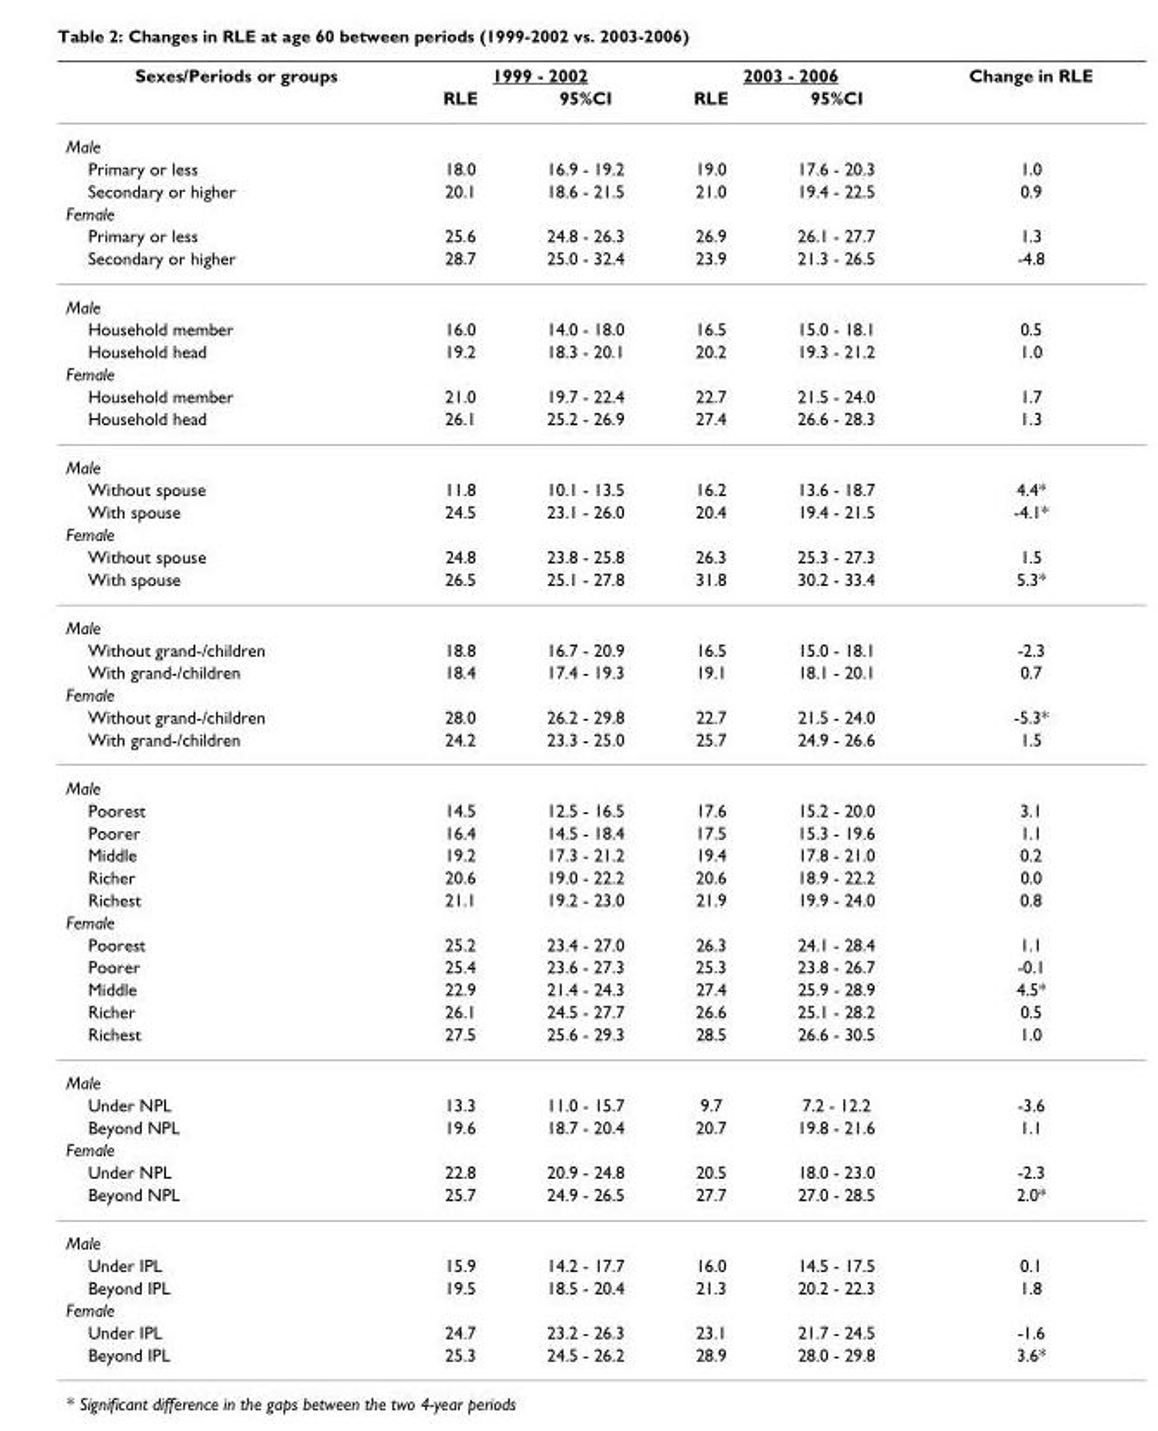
<table><thead><tr><td rowspan="2">Sexes/Periods or groups</td><td colspan="2">1999 - 2002</td><td colspan="2">2003 - 2006</td><td rowspan="2">Change in RLE</td></tr><tr><td>RLE</td><td>95%CI</td><td>RLE</td><td>95%CI</td></tr></thead><tbody><tr><td colspan="6">Male</td></tr><tr><td>Primary or less</td><td>18.0</td><td>16.9 - 19.2</td><td>19.0</td><td>17.6 - 20.3</td><td>1.0</td></tr><tr><td>Secondary or higher</td><td>20.1</td><td>18.6 - 21.5</td><td>21.0</td><td>19.4 - 22.5</td><td>0.9</td></tr><tr><td colspan="6">Female</td></tr><tr><td>Primary or less</td><td>25.6</td><td>24.8 - 26.3</td><td>26.9</td><td>26.1 - 27.7</td><td>1.3</td></tr><tr><td>Secondary or higher</td><td>28.7</td><td>25.0 - 32.4</td><td>23.9</td><td>21.3 - 26.5</td><td>-4.8</td></tr><tr><td colspan="6">Male</td></tr><tr><td>Household member</td><td>16.0</td><td>14.0 - 18.0</td><td>16.5</td><td>15.0 - 18.1</td><td>0.5</td></tr><tr><td>Household head</td><td>19.2</td><td>18.3 - 20.1</td><td>20.2</td><td>19.3 - 21.2</td><td>1.0</td></tr><tr><td colspan="6">Female</td></tr><tr><td>Household member</td><td>21.0</td><td>19.7 - 22.4</td><td>22.7</td><td>21.5 - 24.0</td><td>1.7</td></tr><tr><td>Household head</td><td>26.1</td><td>25.2 - 26.9</td><td>27.4</td><td>26.6 - 28.3</td><td>1.3</td></tr><tr><td colspan="6">Male</td></tr><tr><td>Without spouse</td><td>11.8</td><td>10.1 - 13.5</td><td>16.2</td><td>13.6 - 18.7</td><td>4.4*</td></tr><tr><td>With spouse</td><td>24.5</td><td>23.1 - 26.0</td><td>20.4</td><td>19.4 - 21.5</td><td>-4.1*</td></tr><tr><td colspan="6">Female</td></tr><tr><td>Without spouse</td><td>24.8</td><td>23.8 - 25.8</td><td>26.3</td><td>25.3 - 27.3</td><td>1.5</td></tr><tr><td>With spouse</td><td>26.5</td><td>25.1 - 27.8</td><td>31.8</td><td>30.2 - 33.4</td><td>5.3*</td></tr><tr><td colspan="6">Male</td></tr><tr><td>Without grand-/children</td><td>18.8</td><td>16.7 - 20.9</td><td>16.5</td><td>15.0 - 18.1</td><td>-2.3</td></tr><tr><td>With grand-/children</td><td>18.4</td><td>17.4 - 19.3</td><td>19.1</td><td>18.1 - 20.1</td><td>0.7</td></tr><tr><td colspan="6">Female</td></tr><tr><td>Without grand-/children</td><td>28.0</td><td>26.2 - 29.8</td><td>22.7</td><td>21.5 - 24.0</td><td>-5.3*</td></tr><tr><td>With grand-/children</td><td>24.2</td><td>23.3 - 25.0</td><td>25.7</td><td>24.9 - 26.6</td><td>1.5</td></tr><tr><td colspan="6">Male</td></tr><tr><td>Poorest</td><td>14.5</td><td>12.5 - 16.5</td><td>17.6</td><td>15.2 - 20.0</td><td>3.1</td></tr><tr><td>Poorer</td><td>16.4</td><td>14.5 - 18.4</td><td>17.5</td><td>15.3 - 19.6</td><td>1.1</td></tr><tr><td>Middle</td><td>19.2</td><td>17.3 - 21.2</td><td>19.4</td><td>17.8 - 21.0</td><td>0.2</td></tr><tr><td>Richer</td><td>20.6</td><td>19.0 - 22.2</td><td>20.6</td><td>18.9 - 22.2</td><td>0.0</td></tr><tr><td>Richest</td><td>21.1</td><td>19.2 - 23.0</td><td>21.9</td><td>19.9 - 24.0</td><td>0.8</td></tr><tr><td colspan="6">Female</td></tr><tr><td>Poorest</td><td>25.2</td><td>23.4 - 27.0</td><td>26.3</td><td>24.1 - 28.4</td><td>1.1</td></tr><tr><td>Poorer</td><td>25.4</td><td>23.6 - 27.3</td><td>25.3</td><td>23.8 - 26.7</td><td>-0.1</td></tr><tr><td>Middle</td><td>22.9</td><td>21.4 - 24.3</td><td>27.4</td><td>25.9 - 28.9</td><td>4.5*</td></tr><tr><td>Richer</td><td>26.1</td><td>24.5 - 27.7</td><td>26.6</td><td>25.1 - 28.2</td><td>0.5</td></tr><tr><td>Richest</td><td>27.5</td><td>25.6 - 29.3</td><td>28.5</td><td>26.6 - 30.5</td><td>1.0</td></tr><tr><td colspan="6">Male</td></tr><tr><td>Under NPL</td><td>13.3</td><td>11.0 - 15.7</td><td>9.7</td><td>7.2 - 12.2</td><td>-3.6</td></tr><tr><td>Beyond NPL</td><td>19.6</td><td>18.7 - 20.4</td><td>20.7</td><td>19.8 - 21.6</td><td>1.1</td></tr><tr><td colspan="6">Female</td></tr><tr><td>Under NPL</td><td>22.8</td><td>20.9 - 24.8</td><td>20.5</td><td>18.0 - 23.0</td><td>-2.3</td></tr><tr><td>Beyond NPL</td><td>25.7</td><td>24.9 - 26.5</td><td>27.7</td><td>27.0 - 28.5</td><td>2.0*</td></tr><tr><td colspan="6">Male</td></tr><tr><td>Under IPL</td><td>15.9</td><td>14.2 - 17.7</td><td>16.0</td><td>14.5 - 17.5</td><td>0.1</td></tr><tr><td>Beyond IPL</td><td>19.5</td><td>18.5 - 20.4</td><td>21.3</td><td>20.2 - 22.3</td><td>1.8</td></tr><tr><td colspan="6">Female</td></tr><tr><td>Under IPL</td><td>24.7</td><td>23.2 - 26.3</td><td>23.1</td><td>21.7 - 24.5</td><td>-1.6</td></tr><tr><td>Beyond IPL</td><td>25.3</td><td>24.5 - 26.2</td><td>28.9</td><td>28.0 - 29.8</td><td>3.6*</td></tr></tbody></table>